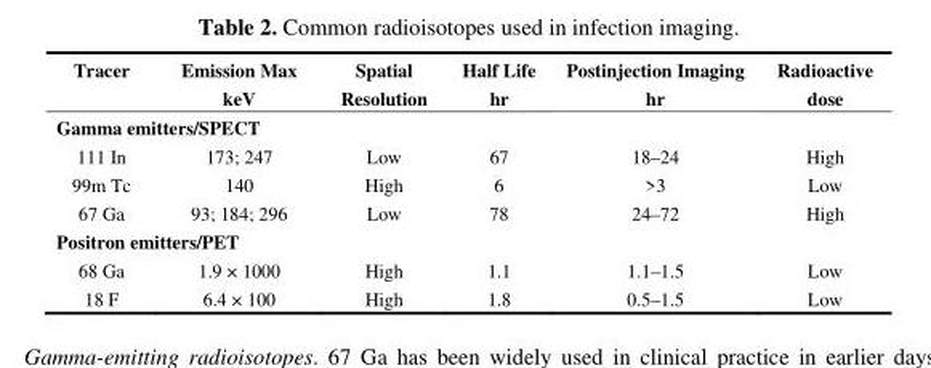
<table><thead><tr><td>Tracer</td><td>Emission Max keV</td><td>Spatial Resolution</td><td>Half Life hr</td><td>Postinjection Imaging hr</td><td>Radioactive dose</td></tr></thead><tbody><tr><td colspan="6">Gamma emitters/SPECT</td></tr><tr><td>111 In</td><td>173; 247</td><td>Low</td><td>67</td><td>18–24</td><td>High</td></tr><tr><td>99m Tc</td><td>140</td><td>High</td><td>6</td><td>&gt;3</td><td>Low</td></tr><tr><td>67 Ga</td><td>93; 184; 296</td><td>Low</td><td>78</td><td>24–72</td><td>High</td></tr><tr><td colspan="6">Positron emitters/PET</td></tr><tr><td>68 Ga</td><td>1.9 × 1000</td><td>High</td><td>1.1</td><td>1.1–1.5</td><td>Low</td></tr><tr><td>18 F</td><td>6.4 × 100</td><td>High</td><td>1.8</td><td>0.5–1.5</td><td>Low</td></tr></tbody></table>